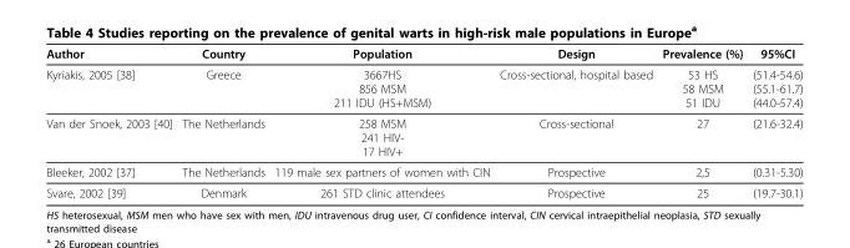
<table><thead><tr><td>Author</td><td>Country</td><td>Population</td><td>Design</td><td>Prevalence (%)</td><td>95%CI</td></tr></thead><tbody><tr><td>Kyriakis, 2005 [38]</td><td>Greece</td><td>3667HS 856 MSM 211 IDU (HS+MSM)</td><td>Cross-sectional, hospital based</td><td>53 HS 58 MSM 51 IDU</td><td>(51.4-54.6) (55.1-61.7) (44.0-57.4)</td></tr><tr><td>Van der Snoek, 2003 [40]</td><td>The Netherlands</td><td>258 MSM 241 HIV- 17 HIV+</td><td>Cross-sectional</td><td>27</td><td>(21.6-32.4)</td></tr><tr><td>Bleeker, 2002 [37]</td><td>The Netherlands</td><td>119 male sex partners of women with CIN</td><td>Prospective</td><td>2,5</td><td>(0.31-5.30)</td></tr><tr><td>Svare, 2002 [39]</td><td>Denmark</td><td>261 STD clinic attendees</td><td>Prospective</td><td>25</td><td>(19.7-30.1)</td></tr></tbody></table>